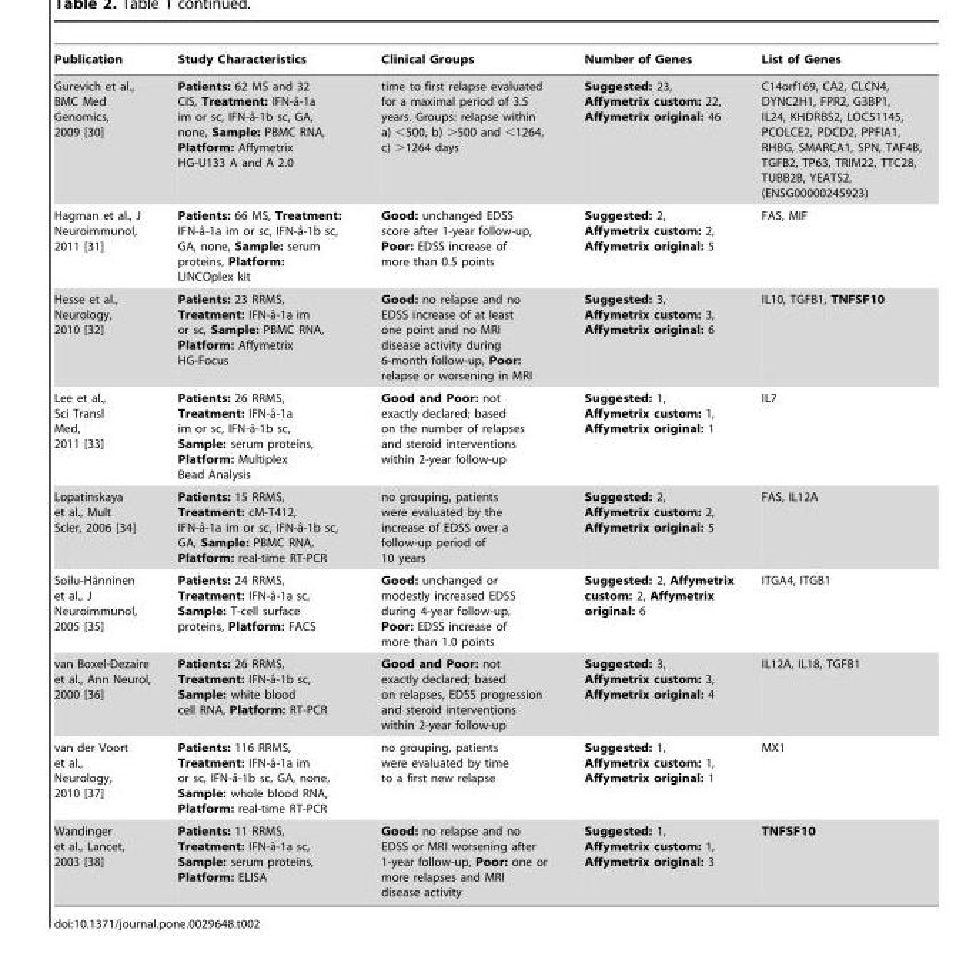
<table><thead><tr><td>Publication</td><td>Study Characteristics</td><td>Clinical Groups</td><td>Number of Genes</td><td>List of Genes</td></tr></thead><tbody><tr><td>Gurevich et al., BMC Med Genomics, 2009 [30]</td><td>Patients: 62 MS and 32 CIS, Treatment: IFN-aˆ-1a im or sc, IFN-aˆ-1b sc, GA, none, Sample: PBMC RNA, Platform: Affymetrix HG-U133 A and A 2.0</td><td>time to first relapse evaluated for a maximal period of 3.5 years. Groups: relapse within a) &lt;500, b) &gt;500 and &lt;1264, c) &gt;1264 days</td><td>Suggested: 23, Affymetrix custom: 22, Affymetrix original: 46</td><td>C14orf169, CA2, CLCN4, DYNC2H1, FPR2, G3BP1, IL24, KHDRBS2, LOC51145, PCOLCE2, PDCD2, PPFIA1, RHBG, SMARCA1, SPN, TAF4B, TGFB2, TP63, TRIM22, TTC28, TUBB2B, YEATS2, (ENSG00000245923)</td></tr><tr><td>Hagman et al., J Neuroimmunol, 2011 [31]</td><td>Patients: 66 MS, Treatment: IFN-aˆ-1a im or sc, IFN-aˆ-1b sc, GA, none, Sample: serum proteins, Platform: LINCOplex kit</td><td>Good: unchanged EDSS score after 1-year follow-up, Poor: EDSS increase of more than 0.5 points</td><td>Suggested: 2, Affymetrix custom: 2, Affymetrix original: 5</td><td>FAS, MIF</td></tr><tr><td>Hesse et al., Neurology, 2010 [32]</td><td>Patients: 23 RRMS, Treatment: IFN-aˆ-1a im or sc, Sample: PBMC RNA, Platform: Affymetrix HG-Focus</td><td>Good: no relapse and no EDSS increase of at least one point and no MRI disease activity during 6-month follow-up, Poor: relapse or worsening in MRI</td><td>Suggested: 3, Affymetrix custom: 3, Affymetrix original: 6</td><td>IL10, TGFB1, TNFSF10</td></tr><tr><td>Lee et al., Sci Transl Med, 2011 [33]</td><td>Patients: 26 RRMS, Treatment: IFN-aˆ-1a im or sc, IFN-aˆ-1b sc, Sample: serum proteins, Platform: Multiplex Bead Analysis</td><td>Good and Poor: not exactly declared; based on the number of relapses and steroid interventions within 2-year follow-up</td><td>Suggested: 1, Affymetrix custom: 1, Affymetrix original: 1</td><td>IL7</td></tr><tr><td>Lopatinskaya et al., Mult Scler, 2006 [34]</td><td>Patients: 15 RRMS, Treatment: cM-T412, IFN-aˆ-1a im or sc, IFN-aˆ-1b sc, GA, Sample: PBMC RNA, Platform: real-time RT-PCR</td><td>no grouping, patients were evaluated by the increase of EDSS over a follow-up period of 10 years</td><td>Suggested: 2, Affymetrix custom: 2, Affymetrix original: 5</td><td>FAS, IL12A</td></tr><tr><td>Soilu-Ha¨nninen et al., J Neuroimmunol, 2005 [35]</td><td>Patients: 24 RRMS, Treatment: IFN-aˆ-1a sc, Sample: T-cell surface proteins, Platform: FACS</td><td>Good: unchanged or modestly increased EDSS during 4-year follow-up, Poor: EDSS increase of more than 1.0 points</td><td>Suggested: 2, Affymetrix custom: 2, Affymetrix original: 6</td><td>ITGA4, ITGB1</td></tr><tr><td>van Boxel-Dezaire et al., Ann Neurol, 2000 [36]</td><td>Patients: 26 RRMS, Treatment: IFN-aˆ-1b sc, Sample: white blood cell RNA, Platform: RT-PCR</td><td>Good and Poor: not exactly declared; based on relapses, EDSS progression and steroid interventions within 2-year follow-up</td><td>Suggested: 3, Affymetrix custom: 3, Affymetrix original: 4</td><td>IL12A, IL18, TGFB1</td></tr><tr><td>van der Voort et al., Neurology, 2010 [37]</td><td>Patients: 116 RRMS, Treatment: IFN-aˆ-1a im or sc, IFN-aˆ-1b sc, GA, none, Sample: whole blood RNA, Platform: real-time RT-PCR</td><td>no grouping, patients were evaluated by time to a first new relapse</td><td>Suggested: 1, Affymetrix custom: 1, Affymetrix original: 1</td><td>MX1</td></tr><tr><td>Wandinger et al., Lancet, 2003 [38]</td><td>Patients: 11 RRMS, Treatment: IFN-aˆ-1a sc, Sample: serum proteins, Platform: ELISA</td><td>Good: no relapse and no EDSS or MRI worsening after 1-year follow-up, Poor: one or more relapses and MRI disease activity</td><td>Suggested: 1, Affymetrix custom: 1, Affymetrix original: 3</td><td>TNFSF10</td></tr></tbody></table>